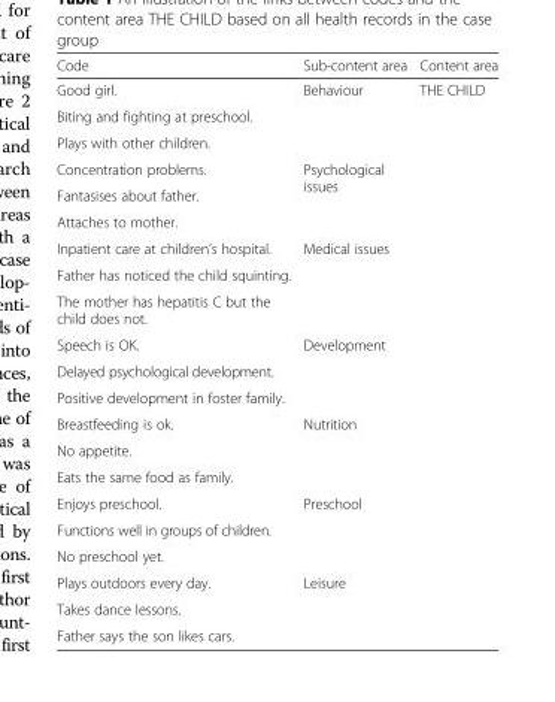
<table><thead><tr><td>Code</td><td>Sub-content area</td><td>Content area</td></tr></thead><tbody><tr><td>Good girl.</td><td rowspan="3">Behaviour</td><td rowspan="21">THE CHILD</td></tr><tr><td>Biting and fighting at preschool.</td></tr><tr><td>Plays with other children.</td></tr><tr><td>Concentration problems.</td><td rowspan="3">Psychological issues</td></tr><tr><td>Fantasises about father.</td></tr><tr><td>Attaches to mother.</td></tr><tr><td>Inpatient care at children’s hospital.</td><td rowspan="3">Medical issues</td></tr><tr><td>Father has noticed the child squinting.</td></tr><tr><td>The mother has hepatitis C but the child does not.</td></tr><tr><td>Speech is OK.</td><td rowspan="3">Development</td></tr><tr><td>Delayed psychological development.</td></tr><tr><td>Positive development in foster family.</td></tr><tr><td>Breastfeeding is ok.</td><td rowspan="3">Nutrition</td></tr><tr><td>No appetite.</td></tr><tr><td>Eats the same food as family.</td></tr><tr><td>Enjoys preschool.</td><td rowspan="3">Preschool</td></tr><tr><td>Functions well in groups of children.</td></tr><tr><td>No preschool yet.</td></tr><tr><td>Plays outdoors every day.</td><td rowspan="3">Leisure</td></tr><tr><td>Takes dance lessons.</td></tr><tr><td>Father says the son likes cars.</td></tr></tbody></table>